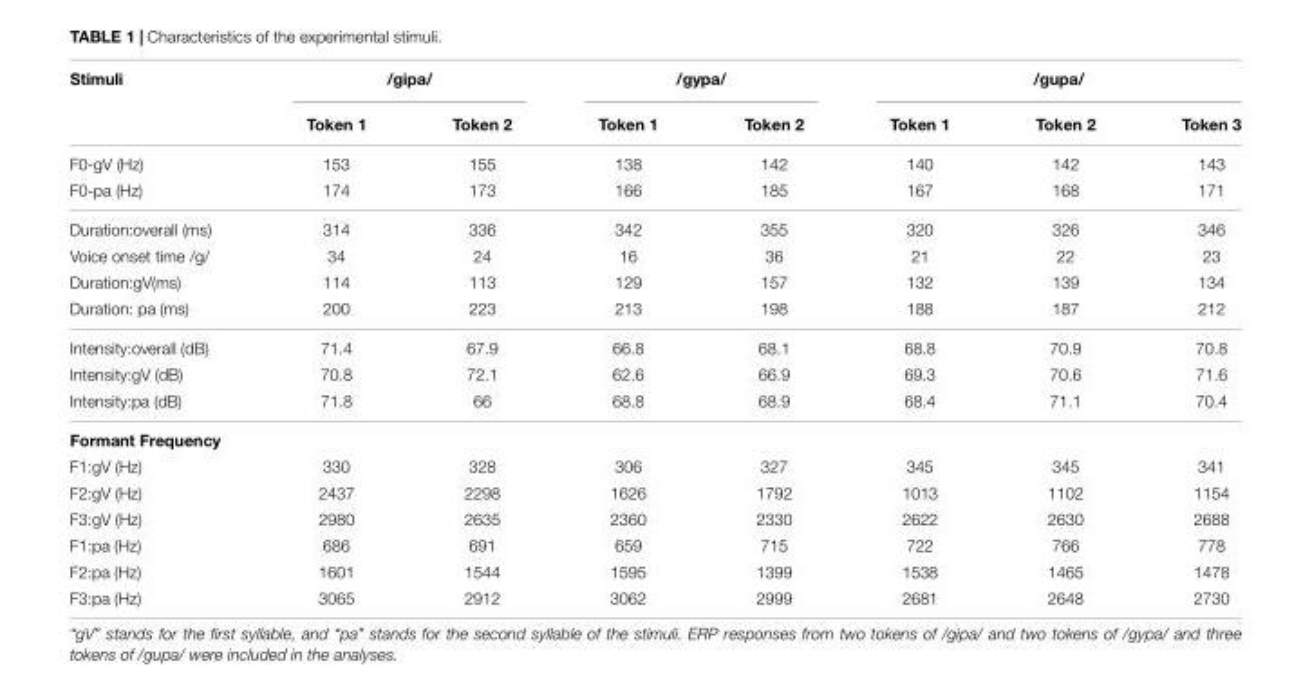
<table><thead><tr><td rowspan="2">Stimuli</td><td colspan="2">/gipa/</td><td colspan="2">/gypa/</td><td colspan="3">/gupa/</td></tr><tr><td>Token 1</td><td>Token 2</td><td>Token 1</td><td>Token 2</td><td>Token 1</td><td>Token 2</td><td>Token 3</td></tr></thead><tbody><tr><td>F0-gV (Hz)</td><td>153</td><td>155</td><td>138</td><td>142</td><td>140</td><td>142</td><td>143</td></tr><tr><td>F0-pa (Hz)</td><td>174</td><td>173</td><td>166</td><td>185</td><td>167</td><td>168</td><td>171</td></tr><tr><td>Duration:overall (ms)</td><td>314</td><td>336</td><td>342</td><td>355</td><td>320</td><td>326</td><td>346</td></tr><tr><td>Voice onset time /g/</td><td>34</td><td>24</td><td>16</td><td>36</td><td>21</td><td>22</td><td>23</td></tr><tr><td>Duration:gV(ms)</td><td>114</td><td>113</td><td>129</td><td>157</td><td>132</td><td>139</td><td>134</td></tr><tr><td>Duration: pa (ms)</td><td>200</td><td>223</td><td>213</td><td>198</td><td>188</td><td>187</td><td>212</td></tr><tr><td>Intensity:overall (dB)</td><td>71.4</td><td>67.9</td><td>66.8</td><td>68.1</td><td>68.8</td><td>70.9</td><td>70.8</td></tr><tr><td>Intensity:gV (dB)</td><td>70.8</td><td>72.1</td><td>62.6</td><td>66.9</td><td>69.3</td><td>70.6</td><td>71.6</td></tr><tr><td>Intensity:pa (dB)</td><td>71.8</td><td>66</td><td>68.8</td><td>68.9</td><td>68.4</td><td>71.1</td><td>70.4</td></tr><tr><td colspan="8">Formant Frequency</td></tr><tr><td>F1:gV (Hz)</td><td>330</td><td>328</td><td>306</td><td>327</td><td>345</td><td>345</td><td>341</td></tr><tr><td>F2:gV (Hz)</td><td>2437</td><td>2298</td><td>1626</td><td>1792</td><td>1013</td><td>1102</td><td>1154</td></tr><tr><td>F3:gV (Hz)</td><td>2980</td><td>2635</td><td>2360</td><td>2330</td><td>2622</td><td>2630</td><td>2688</td></tr><tr><td>F1:pa (Hz)</td><td>686</td><td>691</td><td>659</td><td>715</td><td>722</td><td>766</td><td>778</td></tr><tr><td>F2:pa (Hz)</td><td>1601</td><td>1544</td><td>1595</td><td>1399</td><td>1538</td><td>1465</td><td>1478</td></tr><tr><td>F3:pa (Hz)</td><td>3065</td><td>2912</td><td>3062</td><td>2999</td><td>2681</td><td>2648</td><td>2730</td></tr></tbody></table>